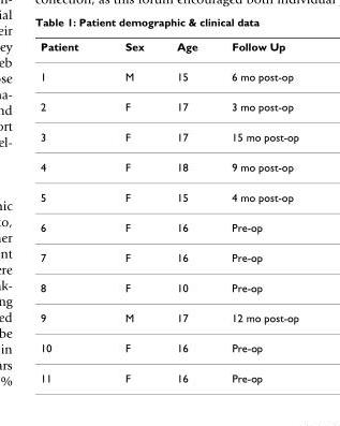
<table><thead><tr><td>Patient</td><td>Sex</td><td>Age</td><td>Follow Up</td></tr></thead><tbody><tr><td>1</td><td>M</td><td>15</td><td>6 mo post-op</td></tr><tr><td>2</td><td>F</td><td>17</td><td>3 mo post-op</td></tr><tr><td>3</td><td>F</td><td>17</td><td>15 mo post-op</td></tr><tr><td>4</td><td>F</td><td>18</td><td>9 mo post-op</td></tr><tr><td>5</td><td>F</td><td>15</td><td>4 mo post-op</td></tr><tr><td>6</td><td>F</td><td>16</td><td>Pre-op</td></tr><tr><td>7</td><td>F</td><td>16</td><td>Pre-op</td></tr><tr><td>8</td><td>F</td><td>10</td><td>Pre-op</td></tr><tr><td>9</td><td>M</td><td>17</td><td>12 mo post-op</td></tr><tr><td>10</td><td>F</td><td>16</td><td>Pre-op</td></tr><tr><td>11</td><td>F</td><td>16</td><td>Pre-op</td></tr></tbody></table>